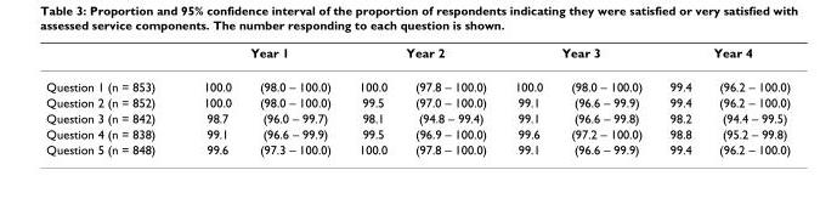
<table><thead><tr><td rowspan="2">Question 1 (n = 853)</td><td colspan="2">Year 1</td><td colspan="2">Year 2</td><td colspan="2">Year 3</td><td colspan="2">Year 4</td></tr><tr><td>100.0</td><td>(98.0 – 100.0)</td><td>100.0</td><td>(97.8 – 100.0)</td><td>100.0</td><td>(98.0 – 100.0)</td><td>99.4</td><td>(96.2 – 100.0)</td></tr></thead><tbody><tr><td>Question 2 (n = 852)</td><td>100.0</td><td>(98.0 – 100.0)</td><td>99.5</td><td>(97.0 – 100.0)</td><td>99.1</td><td>(96.6 – 99.9)</td><td>99.4</td><td>(96.2 – 100.0)</td></tr><tr><td>Question 3 (n = 842)</td><td>98.7</td><td>(96.0 – 99.7)</td><td>98.1</td><td>(94.8 – 99.4)</td><td>99.1</td><td>(96.6 – 99.8)</td><td>98.2</td><td>(94.4 – 99.5)</td></tr><tr><td>Question 4 (n = 838)</td><td>99.1</td><td>(96.6 – 99.9)</td><td>99.5</td><td>(96.9 – 100.0)</td><td>99.6</td><td>(97.2 – 100.0)</td><td>98.8</td><td>(95.2 – 99.8)</td></tr><tr><td>Question 5 (n = 848)</td><td>99.6</td><td>(97.3 – 100.0)</td><td>100.0</td><td>(97.8 – 100.0)</td><td>99.1</td><td>(96.6 – 99.9)</td><td>99.4</td><td>(96.2 – 100.0)</td></tr></tbody></table>